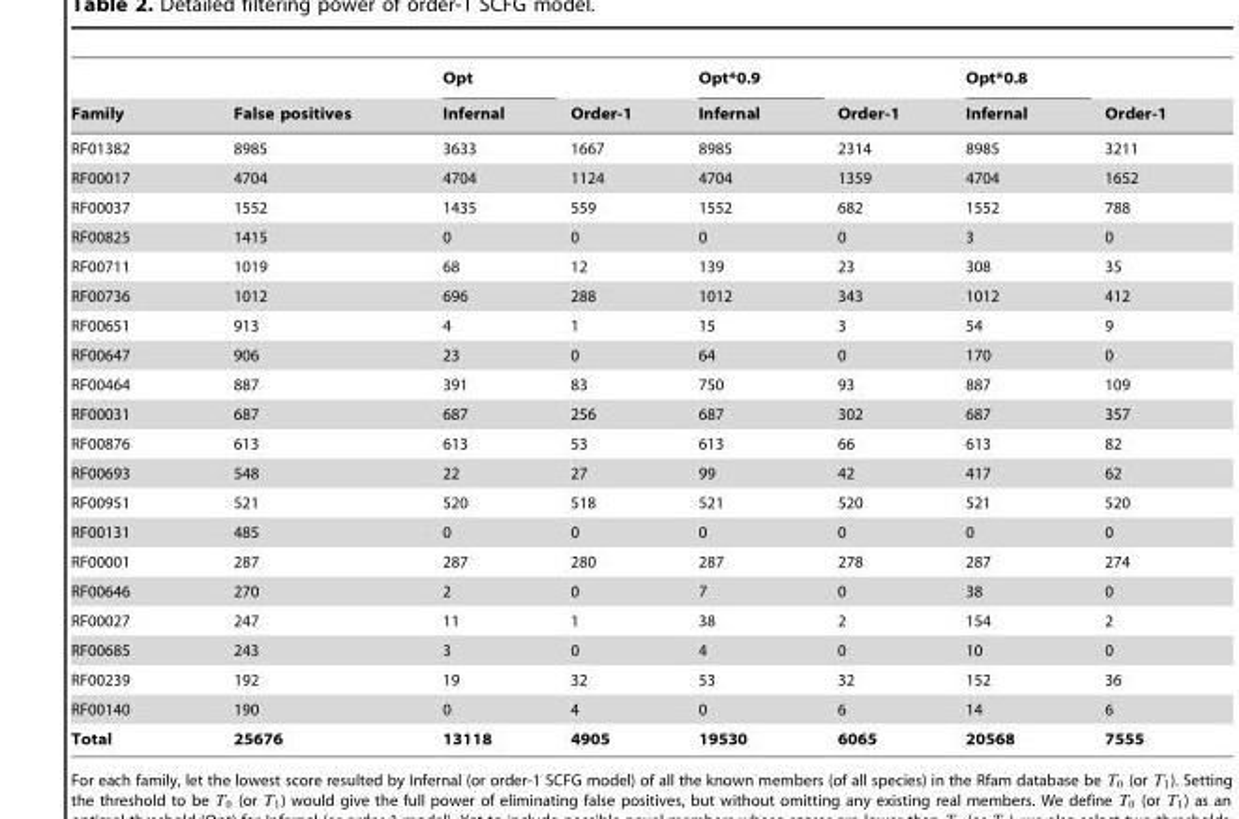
<table><thead><tr><td rowspan="2">Family</td><td rowspan="2">False positives</td><td rowspan="2">Opt Infernal</td><td rowspan="2">Order-1</td><td rowspan="2">Opt*0.9 Infernal</td><td rowspan="2">Order-1</td><td rowspan="2">Opt*0.8 Infernal</td><td rowspan="2">Order-1</td></tr><tr></tr></thead><tbody><tr><td>RF01382</td><td>8985</td><td>3633</td><td>1667</td><td>8985</td><td>2314</td><td>8985</td><td>3211</td></tr><tr><td>RF00017</td><td>4704</td><td>4704</td><td>1124</td><td>4704</td><td>1359</td><td>4704</td><td>1652</td></tr><tr><td>RF00037</td><td>1552</td><td>1435</td><td>559</td><td>1552</td><td>682</td><td>1552</td><td>788</td></tr><tr><td>RF00825</td><td>1415</td><td>0</td><td>0</td><td>0</td><td>0</td><td>3</td><td>0</td></tr><tr><td>RF00711</td><td>1019</td><td>68</td><td>12</td><td>139</td><td>23</td><td>308</td><td>35</td></tr><tr><td>RF00736</td><td>1012</td><td>696</td><td>288</td><td>1012</td><td>343</td><td>1012</td><td>412</td></tr><tr><td>RF00651</td><td>913</td><td>4</td><td>1</td><td>15</td><td>3</td><td>54</td><td>9</td></tr><tr><td>RF00647</td><td>906</td><td>23</td><td>0</td><td>64</td><td>0</td><td>170</td><td>0</td></tr><tr><td>RF00464</td><td>887</td><td>391</td><td>83</td><td>750</td><td>93</td><td>887</td><td>109</td></tr><tr><td>RF00031</td><td>687</td><td>687</td><td>256</td><td>687</td><td>302</td><td>687</td><td>357</td></tr><tr><td>RF00876</td><td>613</td><td>613</td><td>53</td><td>613</td><td>66</td><td>613</td><td>82</td></tr><tr><td>RF00693</td><td>548</td><td>22</td><td>27</td><td>99</td><td>42</td><td>417</td><td>62</td></tr><tr><td>RF00951</td><td>521</td><td>520</td><td>518</td><td>521</td><td>520</td><td>521</td><td>520</td></tr><tr><td>RF00131</td><td>485</td><td>0</td><td>0</td><td>0</td><td>0</td><td>0</td><td>0</td></tr><tr><td>RF00001</td><td>287</td><td>287</td><td>280</td><td>287</td><td>278</td><td>287</td><td>274</td></tr><tr><td>RF00646</td><td>270</td><td>2</td><td>0</td><td>7</td><td>0</td><td>38</td><td>0</td></tr><tr><td>RF00027</td><td>247</td><td>11</td><td>1</td><td>38</td><td>2</td><td>154</td><td>2</td></tr><tr><td>RF00685</td><td>243</td><td>3</td><td>0</td><td>4</td><td>0</td><td>10</td><td>0</td></tr><tr><td>RF00239</td><td>192</td><td>19</td><td>32</td><td>53</td><td>32</td><td>152</td><td>36</td></tr><tr><td>RF00140</td><td>190</td><td>0</td><td>4</td><td>0</td><td>6</td><td>14</td><td>6</td></tr><tr><td>Total</td><td>25676</td><td>13118</td><td>4905</td><td>19530</td><td>6065</td><td>20568</td><td>7555</td></tr></tbody></table>